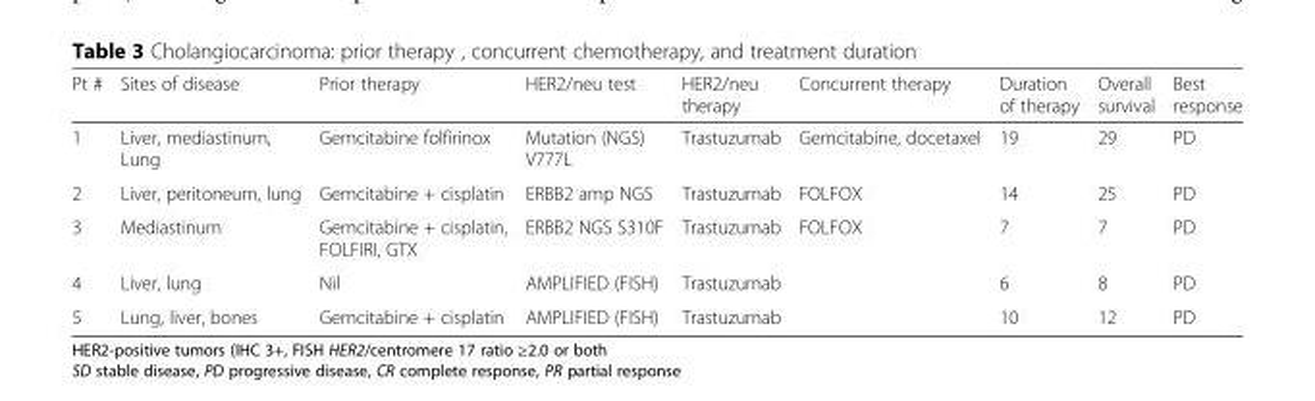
<table><thead><tr><td>Pt #</td><td>Sites of disease</td><td>Prior therapy</td><td>HER2/neu test</td><td>HER2/neu therapy</td><td>Concurrent therapy</td><td>Duration of therapy</td><td>Overall survival</td><td>Best response</td></tr></thead><tbody><tr><td>1</td><td>Liver, mediastinum, Lung</td><td>Gemcitabine folfirinox</td><td>Mutation (NGS) V777L</td><td>Trastuzumab</td><td>Gemcitabine, docetaxel</td><td>19</td><td>29</td><td>PD</td></tr><tr><td>2</td><td>Liver, peritoneum, lung</td><td>Gemcitabine + cisplatin</td><td>ERBB2 amp NGS</td><td>Trastuzumab</td><td>FOLFOX</td><td>14</td><td>25</td><td>PD</td></tr><tr><td>3</td><td>Mediastinum</td><td>Gemcitabine + cisplatin, FOLFIRI, GTX</td><td>ERBB2 NGS S310F</td><td>Trastuzumab</td><td>FOLFOX</td><td>7</td><td>7</td><td>PD</td></tr><tr><td>4</td><td>Liver, lung</td><td>Nil</td><td>AMPLIFIED (FISH)</td><td>Trastuzumab</td><td></td><td>6</td><td>8</td><td>PD</td></tr><tr><td>5</td><td>Lung, liver, bones</td><td>Gemcitabine + cisplatin</td><td>AMPLIFIED (FISH)</td><td>Trastuzumab</td><td></td><td>10</td><td>12</td><td>PD</td></tr></tbody></table>